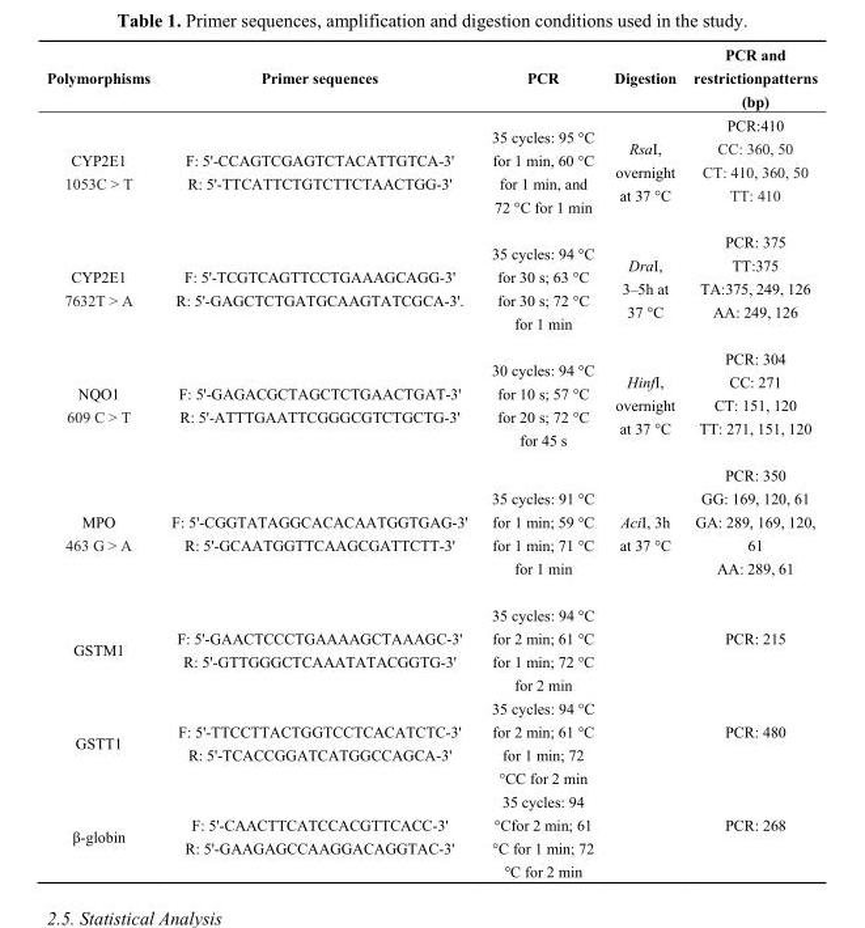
<table><thead><tr><td>Polymorphisms</td><td>Primer sequences</td><td>PCR</td><td>Digestion</td><td>PCR and restrictionpatterns (bp)</td></tr></thead><tbody><tr><td>CYP2E1 1053C &gt; T</td><td>F: 5&#x27;-CCAGTCGAGTCTACATTGTCA-3&#x27; R: 5&#x27;-TTCATTCTGTCTTCTAACTGG-3&#x27;</td><td>35 cycles: 95 °C for 1 min, 60 °C for 1 min, and 72 °C for 1 min</td><td>RsaI, overnight at 37 °C</td><td>PCR:410 CC: 360, 50 CT: 410, 360, 50 TT: 410</td></tr><tr><td>CYP2E1 7632T &gt; A</td><td>F: 5&#x27;-TCGTCAGTTCCTGAAAGCAGG-3&#x27; R: 5&#x27;-GAGCTCTGATGCAAGTATCGCA-3&#x27;.</td><td>35 cycles: 94 °C for 30 s; 63 °C for 30 s; 72 °C for 1 min</td><td>DraI, 3–5h at 37 °C</td><td>PCR: 375 TT:375 TA:375, 249, 126 AA: 249, 126</td></tr><tr><td>NQO1 609 C &gt; T</td><td>F: 5&#x27;-GAGACGCTAGCTCTGAACTGAT-3&#x27; R: 5&#x27;-ATTTGAATTCGGGCGTCTGCTG-3&#x27;</td><td>30 cycles: 94 °C for 10 s; 57 °C for 20 s; 72 °C for 45 s</td><td>HinfI, overnight at 37 °C</td><td>PCR: 304 CC: 271 CT: 151, 120 TT: 271, 151, 120</td></tr><tr><td>MPO 463 G &gt; A</td><td>F: 5&#x27;-CGGTATAGGCACACAATGGTGAG-3&#x27; R: 5&#x27;-GCAATGGTTCAAGCGATTCTT-3&#x27;</td><td>35 cycles: 91 °C for 1 min; 59 °C for 1 min; 71 °C for 1 min</td><td>AciI, 3h at 37 °C</td><td>PCR: 350 GG: 169, 120, 61 GA: 289, 169, 120, 61 AA: 289, 61</td></tr><tr><td>GSTM1</td><td>F: 5&#x27;-GAACTCCCTGAAAAGCTAAAGC-3&#x27; R: 5&#x27;-GTTGGGCTCAAATATACGGTG-3&#x27;</td><td>35 cycles: 94 °C for 2 min; 61 °C for 1 min; 72 °C for 2 min</td><td></td><td>PCR: 215</td></tr><tr><td>GSTT1</td><td>F: 5&#x27;-TTCCTTACTGGTCCTCACATCTC-3&#x27; R: 5&#x27;-TCACCGGATCATGGCCAGCA-3&#x27;</td><td>35 cycles: 94 °C for 2 min; 61 °C for 1 min; 72 °CC for 2 min</td><td></td><td>PCR: 480</td></tr><tr><td>β-globin</td><td>F: 5&#x27;-CAACTTCATCCACGTTCACC-3&#x27; R: 5&#x27;-GAAGAGCCAAGGACAGGTAC-3&#x27;</td><td>35 cycles: 94 °Cfor 2 min; 61 °C for 1 min; 72 °C for 2 min</td><td></td><td>PCR: 268</td></tr></tbody></table>